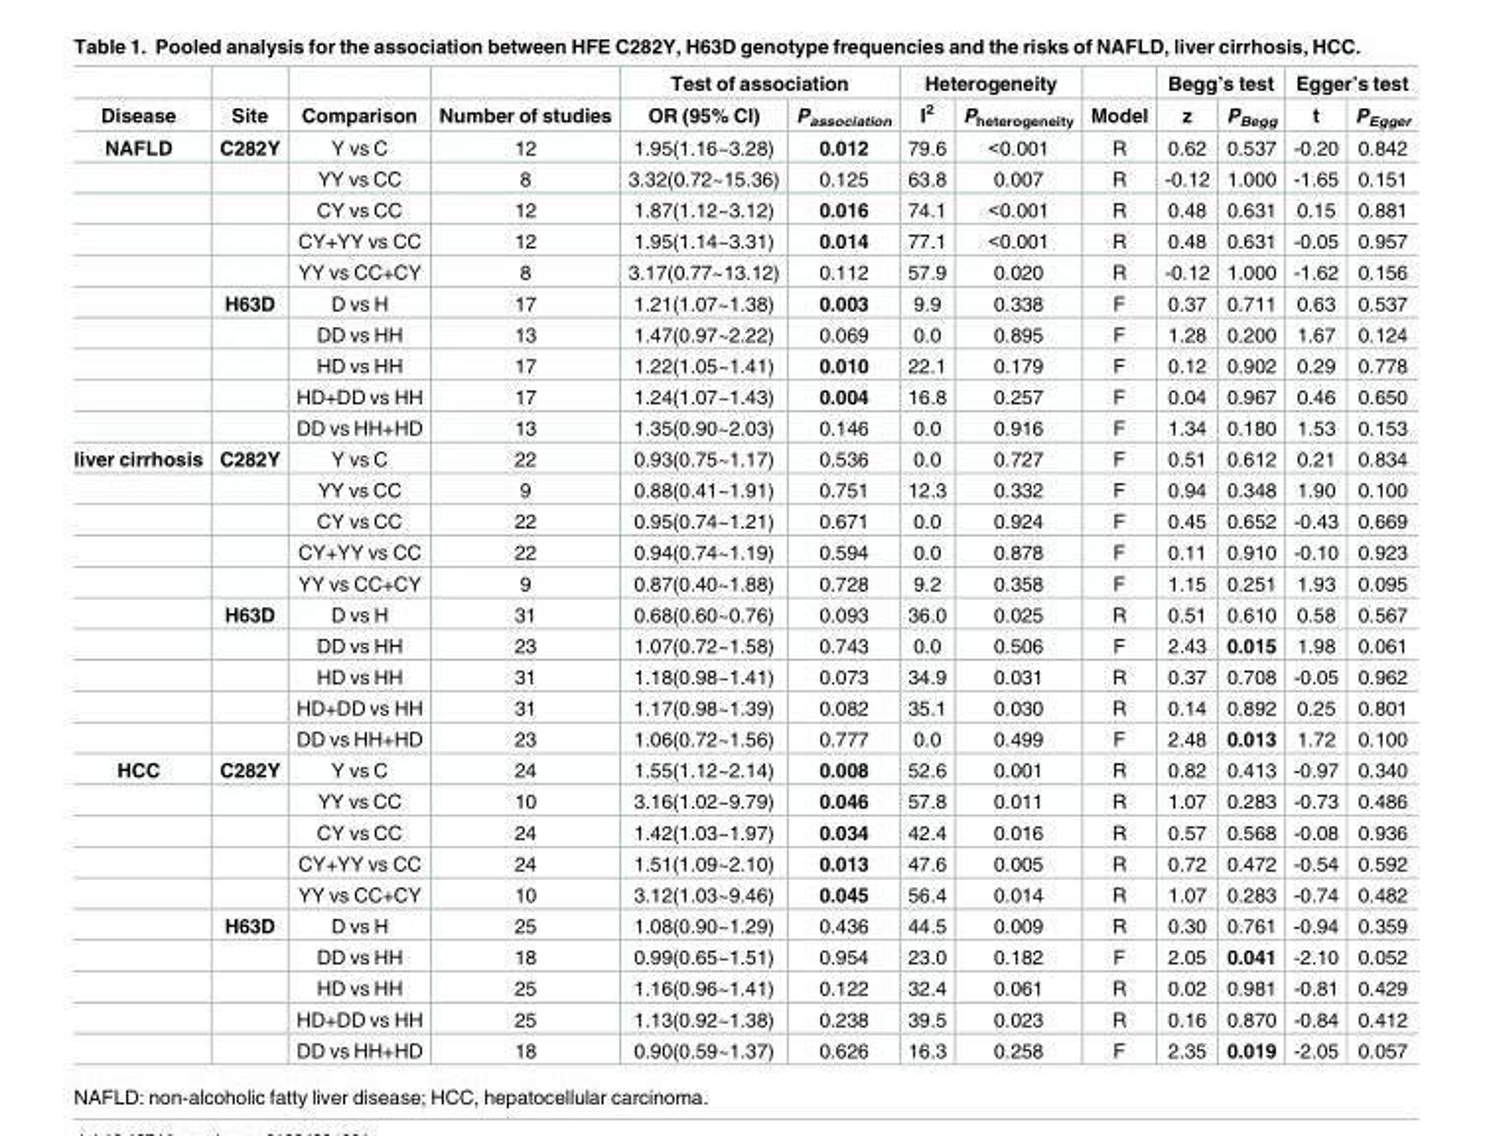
<table><thead><tr><td rowspan="2">Disease</td><td rowspan="2">Site</td><td rowspan="2">Comparison</td><td rowspan="2">Number of studies</td><td colspan="2">Test of association</td><td colspan="2">Heterogeneity</td><td rowspan="2">Model</td><td colspan="2">Begg’s test</td><td colspan="2">Egger’s test</td></tr><tr><td>OR (95% CI)</td><td>P<sub>association</sub></td><td>I<sup>2</sup></td><td>P<sub>heterogeneity</sub></td><td>z</td><td>P<sub>Begg</sub></td><td>t</td><td>P<sub>Egger</sub></td></tr></thead><tbody><tr><td rowspan="10">NAFLD</td><td>C282Y</td><td>Y vs C</td><td>12</td><td>1.95(1.16~3.28)</td><td>0.012</td><td>79.6</td><td>&lt;0.001</td><td>R</td><td>0.62</td><td>0.537</td><td>-0.20</td><td>0.842</td></tr><tr><td></td><td>YY vs CC</td><td>8</td><td>3.32(0.72~15.36)</td><td>0.125</td><td>63.8</td><td>0.007</td><td>R</td><td>-0.12</td><td>1.000</td><td>-1.65</td><td>0.151</td></tr><tr><td></td><td>CY vs CC</td><td>12</td><td>1.87(1.12~3.12)</td><td>0.016</td><td>74.1</td><td>&lt;0.001</td><td>R</td><td>0.48</td><td>0.631</td><td>0.15</td><td>0.881</td></tr><tr><td></td><td>CY+YY vs CC</td><td>12</td><td>1.95(1.14~3.31)</td><td>0.014</td><td>77.1</td><td>&lt;0.001</td><td>R</td><td>0.48</td><td>0.631</td><td>-0.05</td><td>0.957</td></tr><tr><td></td><td>YY vs CC+CY</td><td>8</td><td>3.17(0.77~13.12)</td><td>0.112</td><td>57.9</td><td>0.020</td><td>R</td><td>-0.12</td><td>1.000</td><td>-1.62</td><td>0.156</td></tr><tr><td>H63D</td><td>D vs H</td><td>17</td><td>1.21(1.07~1.38)</td><td>0.003</td><td>9.9</td><td>0.338</td><td>F</td><td>0.37</td><td>0.711</td><td>0.63</td><td>0.537</td></tr><tr><td></td><td>DD vs HH</td><td>13</td><td>1.47(0.97~2.22)</td><td>0.069</td><td>0.0</td><td>0.895</td><td>F</td><td>1.28</td><td>0.200</td><td>1.67</td><td>0.124</td></tr><tr><td></td><td>HD vs HH</td><td>17</td><td>1.22(1.05~1.41)</td><td>0.010</td><td>22.1</td><td>0.179</td><td>F</td><td>0.12</td><td>0.902</td><td>0.29</td><td>0.778</td></tr><tr><td></td><td>HD+DD vs HH</td><td>17</td><td>1.24(1.07~1.43)</td><td>0.004</td><td>16.8</td><td>0.257</td><td>F</td><td>0.04</td><td>0.967</td><td>0.46</td><td>0.650</td></tr><tr><td></td><td>DD vs HH+HD</td><td>13</td><td>1.35(0.90~2.03)</td><td>0.146</td><td>0.0</td><td>0.916</td><td>F</td><td>1.34</td><td>0.180</td><td>1.53</td><td>0.153</td></tr><tr><td rowspan="10">liver cirrhosis</td><td>C282Y</td><td>Y vs C</td><td>22</td><td>0.93(0.75~1.17)</td><td>0.536</td><td>0.0</td><td>0.727</td><td>F</td><td>0.51</td><td>0.612</td><td>0.21</td><td>0.834</td></tr><tr><td></td><td>YY vs CC</td><td>9</td><td>0.88(0.41~1.91)</td><td>0.751</td><td>12.3</td><td>0.332</td><td>F</td><td>0.94</td><td>0.348</td><td>1.90</td><td>0.100</td></tr><tr><td></td><td>CY vs CC</td><td>22</td><td>0.95(0.74~1.21)</td><td>0.671</td><td>0.0</td><td>0.924</td><td>F</td><td>0.45</td><td>0.652</td><td>-0.43</td><td>0.669</td></tr><tr><td></td><td>CY+YY vs CC</td><td>22</td><td>0.94(0.74~1.19)</td><td>0.594</td><td>0.0</td><td>0.878</td><td>F</td><td>0.11</td><td>0.910</td><td>-0.10</td><td>0.923</td></tr><tr><td></td><td>YY vs CC+CY</td><td>9</td><td>0.87(0.40~1.88)</td><td>0.728</td><td>9.2</td><td>0.358</td><td>F</td><td>1.15</td><td>0.251</td><td>1.93</td><td>0.095</td></tr><tr><td>H63D</td><td>D vs H</td><td>31</td><td>0.68(0.60~0.76)</td><td>0.093</td><td>36.0</td><td>0.025</td><td>R</td><td>0.51</td><td>0.610</td><td>0.58</td><td>0.567</td></tr><tr><td></td><td>DD vs HH</td><td>23</td><td>1.07(0.72~1.58)</td><td>0.743</td><td>0.0</td><td>0.506</td><td>F</td><td>2.43</td><td>0.015</td><td>1.98</td><td>0.061</td></tr><tr><td></td><td>HD vs HH</td><td>31</td><td>1.18(0.98~1.41)</td><td>0.073</td><td>34.9</td><td>0.031</td><td>R</td><td>0.37</td><td>0.708</td><td>-0.05</td><td>0.962</td></tr><tr><td></td><td>HD+DD vs HH</td><td>31</td><td>1.17(0.98~1.39)</td><td>0.082</td><td>35.1</td><td>0.030</td><td>R</td><td>0.14</td><td>0.892</td><td>0.25</td><td>0.801</td></tr><tr><td></td><td>DD vs HH+HD</td><td>23</td><td>1.06(0.72~1.56)</td><td>0.777</td><td>0.0</td><td>0.499</td><td>F</td><td>2.48</td><td>0.013</td><td>1.72</td><td>0.100</td></tr><tr><td rowspan="10">HCC</td><td>C282Y</td><td>Y vs C</td><td>24</td><td>1.55(1.12~2.14)</td><td>0.008</td><td>52.6</td><td>0.001</td><td>R</td><td>0.82</td><td>0.413</td><td>-0.97</td><td>0.340</td></tr><tr><td></td><td>YY vs CC</td><td>10</td><td>3.16(1.02~9.79)</td><td>0.046</td><td>57.8</td><td>0.011</td><td>R</td><td>1.07</td><td>0.283</td><td>-0.73</td><td>0.486</td></tr><tr><td></td><td>CY vs CC</td><td>24</td><td>1.42(1.03~1.97)</td><td>0.034</td><td>42.4</td><td>0.016</td><td>R</td><td>0.57</td><td>0.568</td><td>-0.08</td><td>0.936</td></tr><tr><td></td><td>CY+YY vs CC</td><td>24</td><td>1.51(1.09~2.10)</td><td>0.013</td><td>47.6</td><td>0.005</td><td>R</td><td>0.72</td><td>0.472</td><td>-0.54</td><td>0.592</td></tr><tr><td></td><td>YY vs CC+CY</td><td>10</td><td>3.12(1.03~9.46)</td><td>0.045</td><td>56.4</td><td>0.014</td><td>R</td><td>1.07</td><td>0.283</td><td>-0.74</td><td>0.482</td></tr><tr><td>H63D</td><td>D vs H</td><td>25</td><td>1.08(0.90~1.29)</td><td>0.436</td><td>44.5</td><td>0.009</td><td>R</td><td>0.30</td><td>0.761</td><td>-0.94</td><td>0.359</td></tr><tr><td></td><td>DD vs HH</td><td>18</td><td>0.99(0.65~1.51)</td><td>0.954</td><td>23.0</td><td>0.182</td><td>F</td><td>2.05</td><td>0.041</td><td>-2.10</td><td>0.052</td></tr><tr><td></td><td>HD vs HH</td><td>25</td><td>1.16(0.96~1.41)</td><td>0.122</td><td>32.4</td><td>0.061</td><td>R</td><td>0.02</td><td>0.981</td><td>-0.81</td><td>0.429</td></tr><tr><td></td><td>HD+DD vs HH</td><td>25</td><td>1.13(0.92~1.38)</td><td>0.238</td><td>39.5</td><td>0.023</td><td>R</td><td>0.16</td><td>0.870</td><td>-0.84</td><td>0.412</td></tr><tr><td></td><td>DD vs HH+HD</td><td>18</td><td>0.90(0.59~1.37)</td><td>0.626</td><td>16.3</td><td>0.258</td><td>F</td><td>2.35</td><td>0.019</td><td>-2.05</td><td>0.057</td></tr></tbody></table>